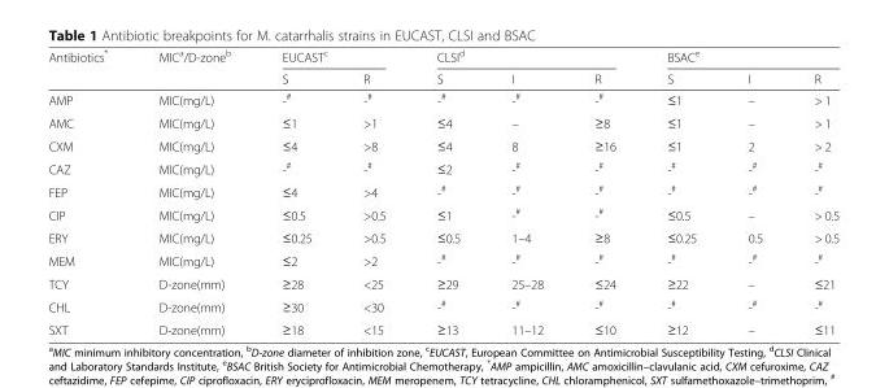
<table><thead><tr><td rowspan="2">Antibiotics*</td><td rowspan="2">MIC<sup>a</sup>/D-zone<sup>b</sup></td><td colspan="2">EUCAST<sup>c</sup></td><td colspan="3">CLSI<sup>d</sup></td><td colspan="3">BSAC<sup>e</sup></td></tr><tr><td>S</td><td>R</td><td>S</td><td>I</td><td>R</td><td>S</td><td>I</td><td>R</td></tr></thead><tbody><tr><td>AMP</td><td>MIC(mg/L)</td><td>-<sup>#</sup></td><td>-<sup>#</sup></td><td>-<sup>#</sup></td><td>-<sup>#</sup></td><td>-<sup>#</sup></td><td>≤1</td><td>–</td><td>&gt; 1</td></tr><tr><td>AMC</td><td>MIC(mg/L)</td><td>≤1</td><td>&gt;1</td><td>≤4</td><td>–</td><td>≥8</td><td>≤1</td><td>–</td><td>&gt; 1</td></tr><tr><td>CXM</td><td>MIC(mg/L)</td><td>≤4</td><td>&gt;8</td><td>≤4</td><td>8</td><td>≥16</td><td>≤1</td><td>2</td><td>&gt; 2</td></tr><tr><td>CAZ</td><td>MIC(mg/L)</td><td>-<sup>#</sup></td><td>-<sup>#</sup></td><td>≤2</td><td>-<sup>#</sup></td><td>-<sup>#</sup></td><td>-<sup>#</sup></td><td>-<sup>#</sup></td><td>-<sup>#</sup></td></tr><tr><td>FEP</td><td>MIC(mg/L)</td><td>≤4</td><td>&gt;4</td><td>-<sup>#</sup></td><td>-<sup>#</sup></td><td>-<sup>#</sup></td><td>-<sup>#</sup></td><td>-<sup>#</sup></td><td>-<sup>#</sup></td></tr><tr><td>CIP</td><td>MIC(mg/L)</td><td>≤0.5</td><td>&gt;0.5</td><td>≤1</td><td>-<sup>#</sup></td><td>-<sup>#</sup></td><td>≤0.5</td><td>–</td><td>&gt; 0.5</td></tr><tr><td>ERY</td><td>MIC(mg/L)</td><td>≤0.25</td><td>&gt;0.5</td><td>≤0.5</td><td>1–4</td><td>≥8</td><td>≤0.25</td><td>0.5</td><td>&gt; 0.5</td></tr><tr><td>MEM</td><td>MIC(mg/L)</td><td>≤2</td><td>&gt;2</td><td>-<sup>#</sup></td><td>-<sup>#</sup></td><td>-<sup>#</sup></td><td>-<sup>#</sup></td><td>-<sup>#</sup></td><td>-<sup>#</sup></td></tr><tr><td>TCY</td><td>D-zone(mm)</td><td>≥28</td><td>&lt;25</td><td>≥29</td><td>25–28</td><td>≤24</td><td>≥22</td><td>–</td><td>≤21</td></tr><tr><td>CHL</td><td>D-zone(mm)</td><td>≥30</td><td>&lt;30</td><td>-<sup>#</sup></td><td>-<sup>#</sup></td><td>-<sup>#</sup></td><td>-<sup>#</sup></td><td>-<sup>#</sup></td><td>-<sup>#</sup></td></tr><tr><td>SXT</td><td>D-zone(mm)</td><td>≥18</td><td>&lt;15</td><td>≥13</td><td>11–12</td><td>≤10</td><td>≥12</td><td>–</td><td>≤11</td></tr></tbody></table>